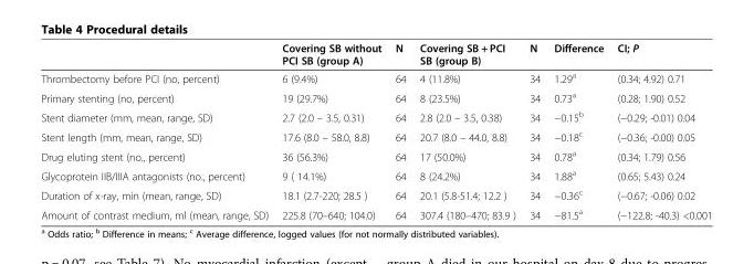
<table><thead><tr><td></td><td>Covering SB without PCI SB (group A)</td><td>N</td><td>Covering SB + PCI SB (group B)</td><td>N</td><td>Difference</td><td>CI; P</td></tr></thead><tbody><tr><td>Thrombectomy before PCI (no, percent)</td><td>6 (9.4%)</td><td>64</td><td>4 (11.8%)</td><td>34</td><td>1.29<sup>a</sup></td><td>(0.34; 4.92) 0.71</td></tr><tr><td>Primary stenting (no, percent)</td><td>19 (29.7%)</td><td>64</td><td>8 (23.5%)</td><td>34</td><td>0.73<sup>a</sup></td><td>(0.28; 1.90) 0.52</td></tr><tr><td>Stent diameter (mm, mean, range, SD)</td><td>2.7 (2.0 – 3.5, 0.31)</td><td>64</td><td>2.8 (2.0 – 3.5, 0.38)</td><td>34</td><td>−0.15<sup>b</sup></td><td>(−0.29; -0.01) 0.04</td></tr><tr><td>Stent length (mm, mean, range, SD)</td><td>17.6 (8.0 – 58.0, 8.8)</td><td>64</td><td>20.7 (8.0 – 44.0, 8.8)</td><td>34</td><td>−0.18<sup>c</sup></td><td>(−0.36; -0.00) 0.05</td></tr><tr><td>Drug eluting stent (no., percent)</td><td>36 (56.3%)</td><td>64</td><td>17 (50.0%)</td><td>34</td><td>0.78<sup>a</sup></td><td>(0.34; 1.79) 0.56</td></tr><tr><td>Glycoprotein IIB/IIIA antagonists (no., percent)</td><td>9 ( 14.1%)</td><td>64</td><td>8 (24.2%)</td><td>34</td><td>1.88<sup>a</sup></td><td>(0.65; 5.43) 0.24</td></tr><tr><td>Duration of x-ray, min (mean, range, SD)</td><td>18.1 (2.7-220; 28.5 )</td><td>64</td><td>20.1 (5.8-51.4; 12.2 )</td><td>34</td><td>−0.36<sup>c</sup></td><td>(−0.67; -0.06) 0.02</td></tr><tr><td>Amount of contrast medium, ml (mean, range, SD)</td><td>225.8 (70–640; 104.0)</td><td>64</td><td>307.4 (180–470; 83.9 )</td><td>34</td><td>−81.5<sup>a</sup></td><td>(−122.8; -40.3) &lt;0.001</td></tr></tbody></table>